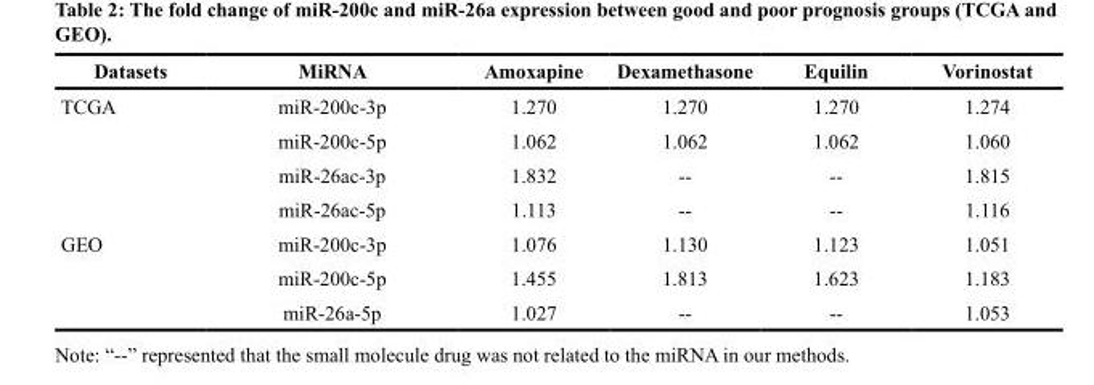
<table><thead><tr><td>Datasets</td><td>MiRNA</td><td>Amoxapine</td><td>Dexamethasone</td><td>Equilin</td><td>Vorinostat</td></tr></thead><tbody><tr><td rowspan="4">TCGA</td><td>miR-200c-3p</td><td>1.270</td><td>1.270</td><td>1.270</td><td>1.274</td></tr><tr><td>miR-200c-5p</td><td>1.062</td><td>1.062</td><td>1.062</td><td>1.060</td></tr><tr><td>miR-26ac-3p</td><td>1.832</td><td>--</td><td>--</td><td>1.815</td></tr><tr><td>miR-26ac-5p</td><td>1.113</td><td>--</td><td>--</td><td>1.116</td></tr><tr><td rowspan="3">GEO</td><td>miR-200c-3p</td><td>1.076</td><td>1.130</td><td>1.123</td><td>1.051</td></tr><tr><td>miR-200c-5p</td><td>1.455</td><td>1.813</td><td>1.623</td><td>1.183</td></tr><tr><td>miR-26a-5p</td><td>1.027</td><td>--</td><td>--</td><td>1.053</td></tr></tbody></table>